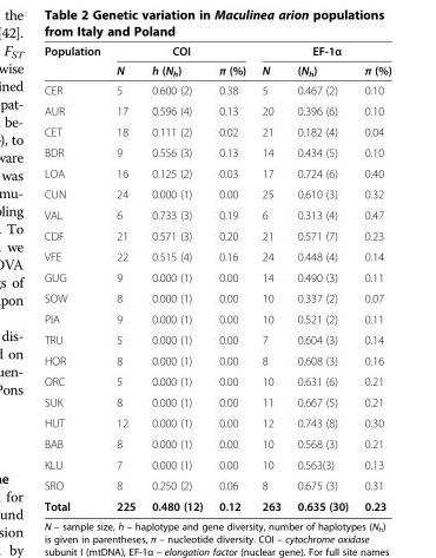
<table><thead><tr><td rowspan="2">Population</td><td colspan="3">COI</td><td colspan="3">EF-1α</td></tr><tr><td>N</td><td>h (N<sub>h</sub>)</td><td>π (%)</td><td>N</td><td>(N<sub>h</sub>)</td><td>π (%)</td></tr></thead><tbody><tr><td>CER</td><td>5</td><td>0.600 (2)</td><td>0.38</td><td>5</td><td>0.467 (2)</td><td>0.10</td></tr><tr><td>AUR</td><td>17</td><td>0.596 (4)</td><td>0.13</td><td>20</td><td>0.396 (6)</td><td>0.10</td></tr><tr><td>CET</td><td>18</td><td>0.111 (2)</td><td>0.02</td><td>21</td><td>0.182 (4)</td><td>0.04</td></tr><tr><td>BDR</td><td>9</td><td>0.556 (3)</td><td>0.13</td><td>14</td><td>0.434 (5)</td><td>0.10</td></tr><tr><td>LOA</td><td>16</td><td>0.125 (2)</td><td>0.03</td><td>17</td><td>0.724 (6)</td><td>0.40</td></tr><tr><td>CUN</td><td>24</td><td>0.000 (1)</td><td>0.00</td><td>25</td><td>0.610 (3)</td><td>0.32</td></tr><tr><td>VAL</td><td>6</td><td>0.733 (3)</td><td>0.19</td><td>6</td><td>0.313 (4)</td><td>0.47</td></tr><tr><td>CDF</td><td>21</td><td>0.571 (3)</td><td>0.20</td><td>21</td><td>0.571 (7)</td><td>0.23</td></tr><tr><td>VFE</td><td>22</td><td>0.515 (4)</td><td>0.16</td><td>24</td><td>0.448 (4)</td><td>0.14</td></tr><tr><td>GUG</td><td>9</td><td>0.000 (1)</td><td>0.00</td><td>14</td><td>0.490 (3)</td><td>0.11</td></tr><tr><td>SOW</td><td>8</td><td>0.000 (1)</td><td>0.00</td><td>10</td><td>0.337 (2)</td><td>0.07</td></tr><tr><td>PIA</td><td>9</td><td>0.000 (1)</td><td>0.00</td><td>10</td><td>0.521 (2)</td><td>0.11</td></tr><tr><td>TRU</td><td>5</td><td>0.000 (1)</td><td>0.00</td><td>7</td><td>0.604 (3)</td><td>0.14</td></tr><tr><td>HOR</td><td>8</td><td>0.000 (1)</td><td>0.00</td><td>8</td><td>0.608 (3)</td><td>0.16</td></tr><tr><td>ORC</td><td>5</td><td>0.000 (1)</td><td>0.00</td><td>10</td><td>0.631 (6)</td><td>0.21</td></tr><tr><td>SUK</td><td>8</td><td>0.000 (1)</td><td>0.00</td><td>11</td><td>0.667 (5)</td><td>0.21</td></tr><tr><td>HUT</td><td>12</td><td>0.000 (1)</td><td>0.00</td><td>12</td><td>0.743 (8)</td><td>0.30</td></tr><tr><td>BAB</td><td>8</td><td>0.000 (1)</td><td>0.00</td><td>10</td><td>0.568 (3)</td><td>0.21</td></tr><tr><td>KLU</td><td>7</td><td>0.000 (1)</td><td>0.00</td><td>10</td><td>0.563(3)</td><td>0.13</td></tr><tr><td>SRO</td><td>8</td><td>0.250 (2)</td><td>0.06</td><td>8</td><td>0.675 (3)</td><td>0.31</td></tr><tr><td>Total</td><td>225</td><td>0.480 (12)</td><td>0.12</td><td>263</td><td>0.635 (30)</td><td>0.23</td></tr></tbody></table>